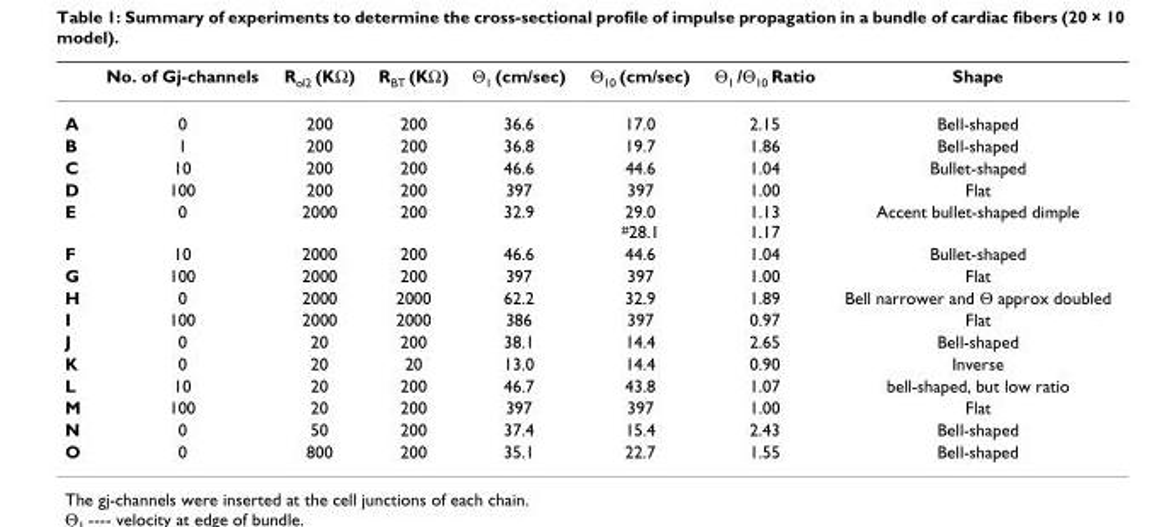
<table><thead><tr><td></td><td>No. of Gj-channels</td><td>R<sub>ol2</sub> (KΩ)</td><td>R<sub>BT</sub> (KΩ)</td><td>Θ<sub>1</sub> (cm/sec)</td><td>Θ<sub>10</sub> (cm/sec)</td><td>Θ<sub>1</sub> /Θ<sub>10</sub> Ratio</td><td>Shape</td></tr></thead><tbody><tr><td>A</td><td>0</td><td>200</td><td>200</td><td>36.6</td><td>17.0</td><td>2.15</td><td>Bell-shaped</td></tr><tr><td>B</td><td>1</td><td>200</td><td>200</td><td>36.8</td><td>19.7</td><td>1.86</td><td>Bell-shaped</td></tr><tr><td>C</td><td>10</td><td>200</td><td>200</td><td>46.6</td><td>44.6</td><td>1.04</td><td>Bullet-shaped</td></tr><tr><td>D</td><td>100</td><td>200</td><td>200</td><td>397</td><td>397</td><td>1.00</td><td>Flat</td></tr><tr><td>E</td><td>0</td><td>2000</td><td>200</td><td>32.9</td><td>29.0 <sup>#</sup>28.1</td><td>1.13 1.17</td><td>Accent bullet-shaped dimple</td></tr><tr><td>F</td><td>10</td><td>2000</td><td>200</td><td>46.6</td><td>44.6</td><td>1.04</td><td>Bullet-shaped</td></tr><tr><td>G</td><td>100</td><td>2000</td><td>200</td><td>397</td><td>397</td><td>1.00</td><td>Flat</td></tr><tr><td>H</td><td>0</td><td>2000</td><td>2000</td><td>62.2</td><td>32.9</td><td>1.89</td><td>Bell narrower and Θ approx doubled</td></tr><tr><td>I</td><td>100</td><td>2000</td><td>2000</td><td>386</td><td>397</td><td>0.97</td><td>Flat</td></tr><tr><td>J</td><td>0</td><td>20</td><td>200</td><td>38.1</td><td>14.4</td><td>2.65</td><td>Bell-shaped</td></tr><tr><td>K</td><td>0</td><td>20</td><td>20</td><td>13.0</td><td>14.4</td><td>0.90</td><td>Inverse</td></tr><tr><td>L</td><td>10</td><td>20</td><td>200</td><td>46.7</td><td>43.8</td><td>1.07</td><td>bell-shaped, but low ratio</td></tr><tr><td>M</td><td>100</td><td>20</td><td>200</td><td>397</td><td>397</td><td>1.00</td><td>Flat</td></tr><tr><td>N</td><td>0</td><td>50</td><td>200</td><td>37.4</td><td>15.4</td><td>2.43</td><td>Bell-shaped</td></tr><tr><td>O</td><td>0</td><td>800</td><td>200</td><td>35.1</td><td>22.7</td><td>1.55</td><td>Bell-shaped</td></tr></tbody></table>